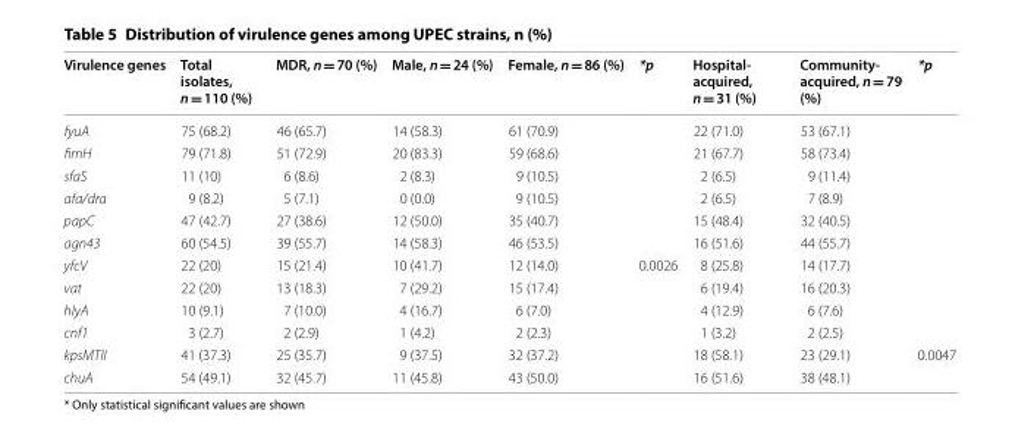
<table><thead><tr><td>Virulence genes</td><td>Total isolates, n = 110 (%)</td><td>MDR, n = 70 (%)</td><td>Male, n = 24 (%)</td><td>Female, n = 86 (%)</td><td>*p</td><td>Hospital‑ acquired, n = 31 (%)</td><td>Community‑ acquired, n = 79 (%)</td><td>*p</td></tr></thead><tbody><tr><td>fyuA</td><td>75 (68.2)</td><td>46 (65.7)</td><td>14 (58.3)</td><td>61 (70.9)</td><td></td><td>22 (71.0)</td><td>53 (67.1)</td><td></td></tr><tr><td>fimH</td><td>79 (71.8)</td><td>51 (72.9)</td><td>20 (83.3)</td><td>59 (68.6)</td><td></td><td>21 (67.7)</td><td>58 (73.4)</td><td></td></tr><tr><td>sfaS</td><td>11 (10)</td><td>6 (8.6)</td><td>2 (8.3)</td><td>9 (10.5)</td><td></td><td>2 (6.5)</td><td>9 (11.4)</td><td></td></tr><tr><td>afa/dra</td><td>9 (8.2)</td><td>5 (7.1)</td><td>0 (0.0)</td><td>9 (10.5)</td><td></td><td>2 (6.5)</td><td>7 (8.9)</td><td></td></tr><tr><td>papC</td><td>47 (42.7)</td><td>27 (38.6)</td><td>12 (50.0)</td><td>35 (40.7)</td><td></td><td>15 (48.4)</td><td>32 (40.5)</td><td></td></tr><tr><td>agn43</td><td>60 (54.5)</td><td>39 (55.7)</td><td>14 (58.3)</td><td>46 (53.5)</td><td></td><td>16 (51.6)</td><td>44 (55.7)</td><td></td></tr><tr><td>yfcV</td><td>22 (20)</td><td>15 (21.4)</td><td>10 (41.7)</td><td>12 (14.0)</td><td>0.0026</td><td>8 (25.8)</td><td>14 (17.7)</td><td></td></tr><tr><td>vat</td><td>22 (20)</td><td>13 (18.3)</td><td>7 (29.2)</td><td>15 (17.4)</td><td></td><td>6 (19.4)</td><td>16 (20.3)</td><td></td></tr><tr><td>hlyA</td><td>10 (9.1)</td><td>7 (10.0)</td><td>4 (16.7)</td><td>6 (7.0)</td><td></td><td>4 (12.9)</td><td>6 (7.6)</td><td></td></tr><tr><td>cnf1</td><td>3 (2.7)</td><td>2 (2.9)</td><td>1 (4.2)</td><td>2 (2.3)</td><td></td><td>1 (3.2)</td><td>2 (2.5)</td><td></td></tr><tr><td>kpsMTII</td><td>41 (37.3)</td><td>25 (35.7)</td><td>9 (37.5)</td><td>32 (37.2)</td><td></td><td>18 (58.1)</td><td>23 (29.1)</td><td>0.0047</td></tr><tr><td>chuA</td><td>54 (49.1)</td><td>32 (45.7)</td><td>11 (45.8)</td><td>43 (50.0)</td><td></td><td>16 (51.6)</td><td>38 (48.1)</td><td></td></tr></tbody></table>